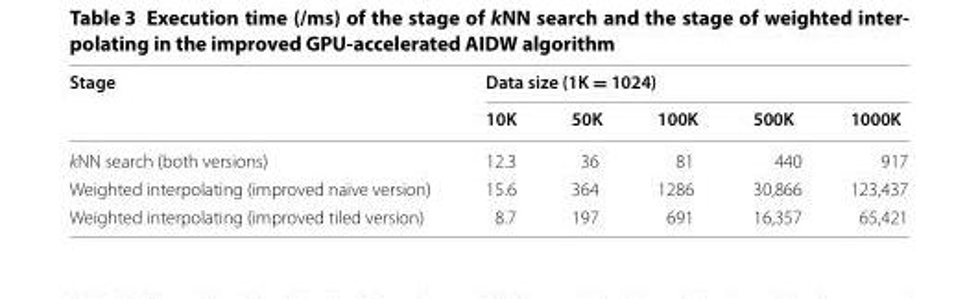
<table><thead><tr><td rowspan="2">Stage</td><td colspan="5">Data size (1K = 1024)</td></tr><tr><td>10K</td><td>50K</td><td>100K</td><td>500K</td><td>1000K</td></tr></thead><tbody><tr><td>kNN search (both versions)</td><td>12.3</td><td>36</td><td>81</td><td>440</td><td>917</td></tr><tr><td>Weighted interpolating (improved naive version)</td><td>15.6</td><td>364</td><td>1286</td><td>30,866</td><td>123,437</td></tr><tr><td>Weighted interpolating (improved tiled version)</td><td>8.7</td><td>197</td><td>691</td><td>16,357</td><td>65,421</td></tr></tbody></table>